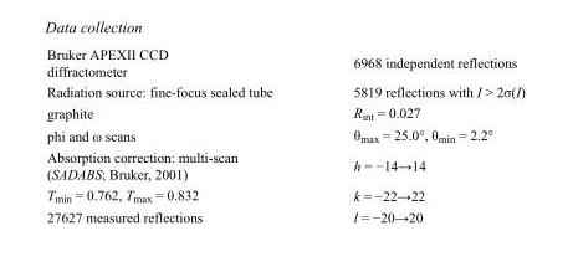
<table><tbody><tr><td>Bruker APEXII CCD diffractometer</td><td>6968 independent reflections</td></tr><tr><td>Radiation source: fine-focus sealed tube</td><td>5819 reflections with I &gt; 2σ(I)</td></tr><tr><td>graphite</td><td>R<sub>int</sub> = 0.027</td></tr><tr><td>phi and ω scans</td><td>θ<sub>max</sub> = 25.0°, θ<sub>min</sub> = 2.2°</td></tr><tr><td>Absorption correction: multi-scan (SADABS; Bruker, 2001)</td><td>h = −14→14</td></tr><tr><td>T<sub>min</sub> = 0.762, T<sub>max</sub> = 0.832</td><td>k = −22→22</td></tr><tr><td>27627 measured reflections</td><td>l = −20→20</td></tr></tbody></table>